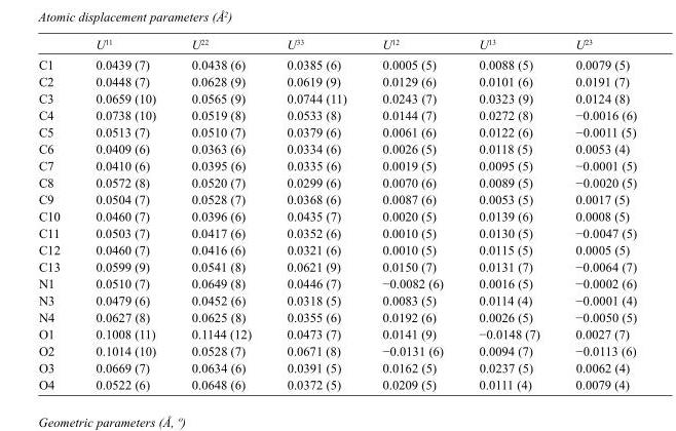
<table><thead><tr><td></td><td>U<sup>11</sup></td><td>U<sup>22</sup></td><td>U<sup>33</sup></td><td>U<sup>12</sup></td><td>U<sup>13</sup></td><td>U<sup>23</sup></td></tr></thead><tbody><tr><td>C1</td><td>0.0439 (7)</td><td>0.0438 (6)</td><td>0.0385 (6)</td><td>0.0005 (5)</td><td>0.0088 (5)</td><td>0.0079 (5)</td></tr><tr><td>C2</td><td>0.0448 (7)</td><td>0.0628 (9)</td><td>0.0619 (9)</td><td>0.0129 (6)</td><td>0.0101 (6)</td><td>0.0191 (7)</td></tr><tr><td>C3</td><td>0.0659 (10)</td><td>0.0565 (9)</td><td>0.0744 (11)</td><td>0.0243 (7)</td><td>0.0323 (9)</td><td>0.0124 (8)</td></tr><tr><td>C4</td><td>0.0738 (10)</td><td>0.0519 (8)</td><td>0.0533 (8)</td><td>0.0144 (7)</td><td>0.0272 (8)</td><td>−0.0016 (6)</td></tr><tr><td>C5</td><td>0.0513 (7)</td><td>0.0510 (7)</td><td>0.0379 (6)</td><td>0.0061 (6)</td><td>0.0122 (6)</td><td>−0.0011 (5)</td></tr><tr><td>C6</td><td>0.0409 (6)</td><td>0.0363 (6)</td><td>0.0334 (6)</td><td>0.0026 (5)</td><td>0.0118 (5)</td><td>0.0053 (4)</td></tr><tr><td>C7</td><td>0.0410 (6)</td><td>0.0395 (6)</td><td>0.0335 (6)</td><td>0.0019 (5)</td><td>0.0095 (5)</td><td>−0.0001 (5)</td></tr><tr><td>C8</td><td>0.0572 (8)</td><td>0.0520 (7)</td><td>0.0299 (6)</td><td>0.0070 (6)</td><td>0.0089 (5)</td><td>−0.0020 (5)</td></tr><tr><td>C9</td><td>0.0504 (7)</td><td>0.0528 (7)</td><td>0.0368 (6)</td><td>0.0087 (6)</td><td>0.0053 (5)</td><td>0.0017 (5)</td></tr><tr><td>C10</td><td>0.0460 (7)</td><td>0.0396 (6)</td><td>0.0435 (7)</td><td>0.0020 (5)</td><td>0.0139 (6)</td><td>0.0008 (5)</td></tr><tr><td>C11</td><td>0.0503 (7)</td><td>0.0417 (6)</td><td>0.0352 (6)</td><td>0.0010 (5)</td><td>0.0130 (5)</td><td>−0.0047 (5)</td></tr><tr><td>C12</td><td>0.0460 (7)</td><td>0.0416 (6)</td><td>0.0321 (6)</td><td>0.0010 (5)</td><td>0.0115 (5)</td><td>0.0005 (5)</td></tr><tr><td>C13</td><td>0.0599 (9)</td><td>0.0541 (8)</td><td>0.0621 (9)</td><td>0.0150 (7)</td><td>0.0131 (7)</td><td>−0.0064 (7)</td></tr><tr><td>N1</td><td>0.0510 (7)</td><td>0.0649 (8)</td><td>0.0446 (7)</td><td>−0.0082 (6)</td><td>0.0016 (5)</td><td>−0.0002 (6)</td></tr><tr><td>N3</td><td>0.0479 (6)</td><td>0.0452 (6)</td><td>0.0318 (5)</td><td>0.0083 (5)</td><td>0.0114 (4)</td><td>−0.0001 (4)</td></tr><tr><td>N4</td><td>0.0627 (8)</td><td>0.0625 (8)</td><td>0.0355 (6)</td><td>0.0192 (6)</td><td>0.0026 (5)</td><td>−0.0050 (5)</td></tr><tr><td>O1</td><td>0.1008 (11)</td><td>0.1144 (12)</td><td>0.0473 (7)</td><td>0.0141 (9)</td><td>−0.0148 (7)</td><td>0.0027 (7)</td></tr><tr><td>O2</td><td>0.1014 (10)</td><td>0.0528 (7)</td><td>0.0671 (8)</td><td>−0.0131 (6)</td><td>0.0094 (7)</td><td>−0.0113 (6)</td></tr><tr><td>O3</td><td>0.0669 (7)</td><td>0.0634 (6)</td><td>0.0391 (5)</td><td>0.0162 (5)</td><td>0.0237 (5)</td><td>0.0062 (4)</td></tr><tr><td>O4</td><td>0.0522 (6)</td><td>0.0648 (6)</td><td>0.0372 (5)</td><td>0.0209 (5)</td><td>0.0111 (4)</td><td>0.0079 (4)</td></tr></tbody></table>